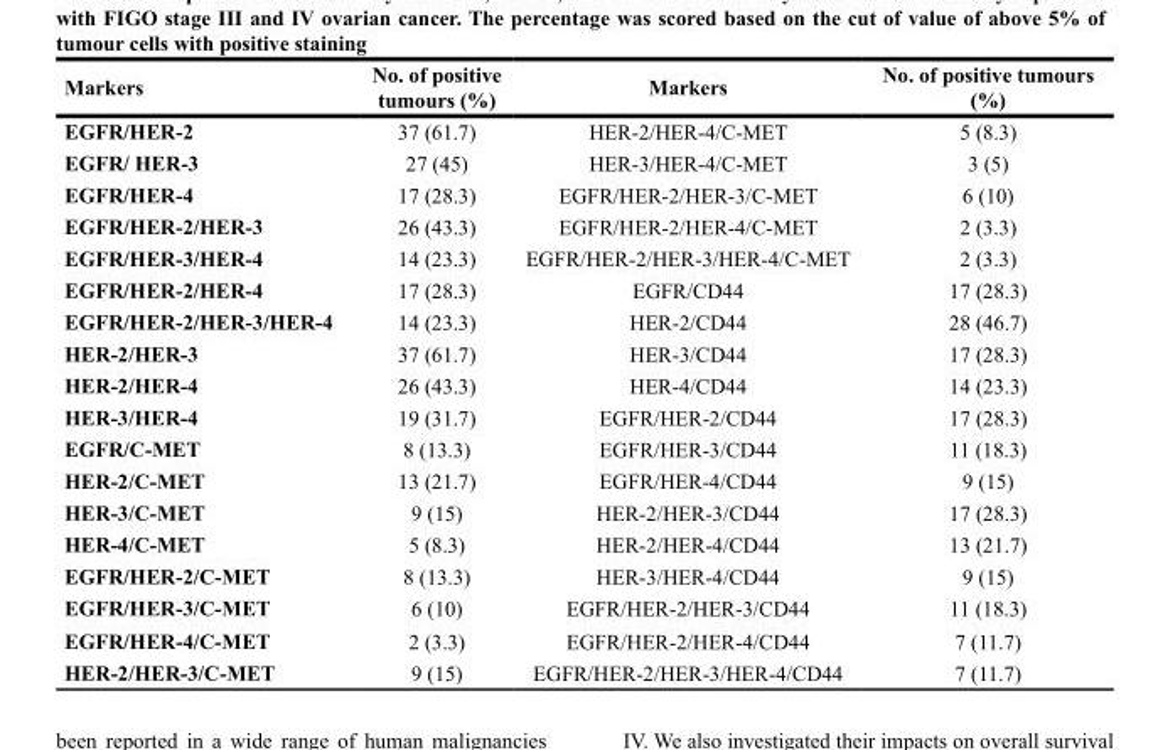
<table><thead><tr><td>Markers</td><td>No. of positive tumours (%)</td><td>Markers</td><td>No. of positive tumours (%)</td></tr></thead><tbody><tr><td>EGFR/HER-2</td><td>37 (61.7)</td><td>HER-2/HER-4/C-MET</td><td>5 (8.3)</td></tr><tr><td>EGFR/ HER-3</td><td>27 (45)</td><td>HER-3/HER-4/C-MET</td><td>3 (5)</td></tr><tr><td>EGFR/HER-4</td><td>17 (28.3)</td><td>EGFR/HER-2/HER-3/C-MET</td><td>6 (10)</td></tr><tr><td>EGFR/HER-2/HER-3</td><td>26 (43.3)</td><td>EGFR/HER-2/HER-4/C-MET</td><td>2 (3.3)</td></tr><tr><td>EGFR/HER-3/HER-4</td><td>14 (23.3)</td><td>EGFR/HER-2/HER-3/HER-4/C-MET</td><td>2 (3.3)</td></tr><tr><td>EGFR/HER-2/HER-4</td><td>17 (28.3)</td><td>EGFR/CD44</td><td>17 (28.3)</td></tr><tr><td>EGFR/HER-2/HER-3/HER-4</td><td>14 (23.3)</td><td>HER-2/CD44</td><td>28 (46.7)</td></tr><tr><td>HER-2/HER-3</td><td>37 (61.7)</td><td>HER-3/CD44</td><td>17 (28.3)</td></tr><tr><td>HER-2/HER-4</td><td>26 (43.3)</td><td>HER-4/CD44</td><td>14 (23.3)</td></tr><tr><td>HER-3/HER-4</td><td>19 (31.7)</td><td>EGFR/HER-2/CD44</td><td>17 (28.3)</td></tr><tr><td>EGFR/C-MET</td><td>8 (13.3)</td><td>EGFR/HER-3/CD44</td><td>11 (18.3)</td></tr><tr><td>HER-2/C-MET</td><td>13 (21.7)</td><td>EGFR/HER-4/CD44</td><td>9 (15)</td></tr><tr><td>HER-3/C-MET</td><td>9 (15)</td><td>HER-2/HER-3/CD44</td><td>17 (28.3)</td></tr><tr><td>HER-4/C-MET</td><td>5 (8.3)</td><td>HER-2/HER-4/CD44</td><td>13 (21.7)</td></tr><tr><td>EGFR/HER-2/C-MET</td><td>8 (13.3)</td><td>HER-3/HER-4/CD44</td><td>9 (15)</td></tr><tr><td>EGFR/HER-3/C-MET</td><td>6 (10)</td><td>EGFR/HER-2/HER-3/CD44</td><td>11 (18.3)</td></tr><tr><td>EGFR/HER-4/C-MET</td><td>2 (3.3)</td><td>EGFR/HER-2/HER-4/CD44</td><td>7 (11.7)</td></tr><tr><td>HER-2/HER-3/C-MET</td><td>9 (15)</td><td>EGFR/HER-2/HER-3/HER-4/CD44</td><td>7 (11.7)</td></tr></tbody></table>